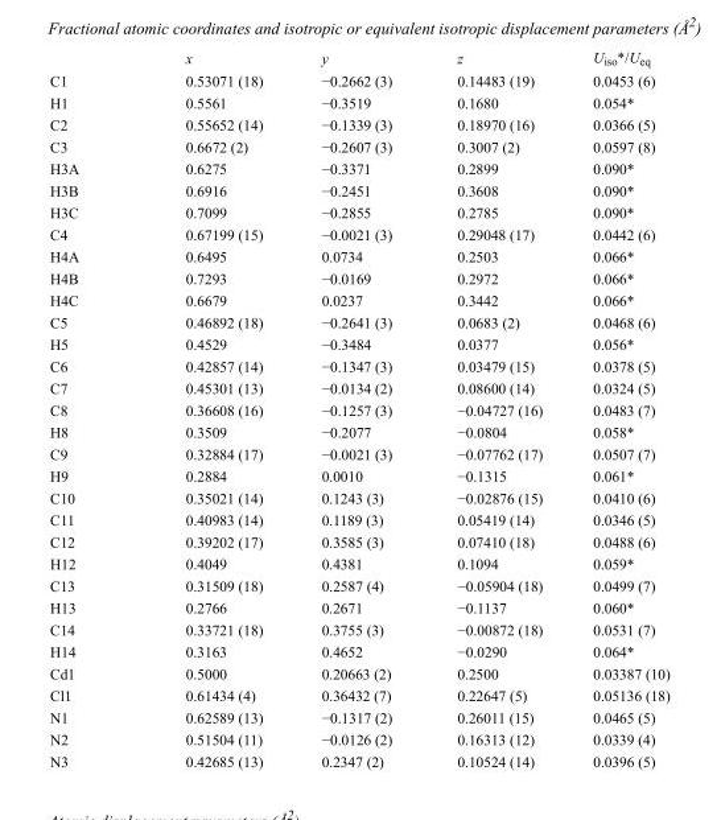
<table><thead><tr><td></td><td>x</td><td>y</td><td>z</td><td>U<sub>iso</sub>*/U<sub>eq</sub></td></tr></thead><tbody><tr><td>C1</td><td>0.53071 (18)</td><td>−0.2662 (3)</td><td>0.14483 (19)</td><td>0.0453 (6)</td></tr><tr><td>H1</td><td>0.5561</td><td>−0.3519</td><td>0.1680</td><td>0.054*</td></tr><tr><td>C2</td><td>0.55652 (14)</td><td>−0.1339 (3)</td><td>0.18970 (16)</td><td>0.0366 (5)</td></tr><tr><td>C3</td><td>0.6672 (2)</td><td>−0.2607 (3)</td><td>0.3007 (2)</td><td>0.0597 (8)</td></tr><tr><td>H3A</td><td>0.6275</td><td>−0.3371</td><td>0.2899</td><td>0.090*</td></tr><tr><td>H3B</td><td>0.6916</td><td>−0.2451</td><td>0.3608</td><td>0.090*</td></tr><tr><td>H3C</td><td>0.7099</td><td>−0.2855</td><td>0.2785</td><td>0.090*</td></tr><tr><td>C4</td><td>0.67199 (15)</td><td>−0.0021 (3)</td><td>0.29048 (17)</td><td>0.0442 (6)</td></tr><tr><td>H4A</td><td>0.6495</td><td>0.0734</td><td>0.2503</td><td>0.066*</td></tr><tr><td>H4B</td><td>0.7293</td><td>−0.0169</td><td>0.2972</td><td>0.066*</td></tr><tr><td>H4C</td><td>0.6679</td><td>0.0237</td><td>0.3442</td><td>0.066*</td></tr><tr><td>C5</td><td>0.46892 (18)</td><td>−0.2641 (3)</td><td>0.0683 (2)</td><td>0.0468 (6)</td></tr><tr><td>H5</td><td>0.4529</td><td>−0.3484</td><td>0.0377</td><td>0.056*</td></tr><tr><td>C6</td><td>0.42857 (14)</td><td>−0.1347 (3)</td><td>0.03479 (15)</td><td>0.0378 (5)</td></tr><tr><td>C7</td><td>0.45301 (13)</td><td>−0.0134 (2)</td><td>0.08600 (14)</td><td>0.0324 (5)</td></tr><tr><td>C8</td><td>0.36608 (16)</td><td>−0.1257 (3)</td><td>−0.04727 (16)</td><td>0.0483 (7)</td></tr><tr><td>H8</td><td>0.3509</td><td>−0.2077</td><td>−0.0804</td><td>0.058*</td></tr><tr><td>C9</td><td>0.32884 (17)</td><td>−0.0021 (3)</td><td>−0.07762 (17)</td><td>0.0507 (7)</td></tr><tr><td>H9</td><td>0.2884</td><td>0.0010</td><td>−0.1315</td><td>0.061*</td></tr><tr><td>C10</td><td>0.35021 (14)</td><td>0.1243 (3)</td><td>−0.02876 (15)</td><td>0.0410 (6)</td></tr><tr><td>C11</td><td>0.40983 (14)</td><td>0.1189 (3)</td><td>0.05419 (14)</td><td>0.0346 (5)</td></tr><tr><td>C12</td><td>0.39202 (17)</td><td>0.3585 (3)</td><td>0.07410 (18)</td><td>0.0488 (6)</td></tr><tr><td>H12</td><td>0.4049</td><td>0.4381</td><td>0.1094</td><td>0.059*</td></tr><tr><td>C13</td><td>0.31509 (18)</td><td>0.2587 (4)</td><td>−0.05904 (18)</td><td>0.0499 (7)</td></tr><tr><td>H13</td><td>0.2766</td><td>0.2671</td><td>−0.1137</td><td>0.060*</td></tr><tr><td>C14</td><td>0.33721 (18)</td><td>0.3755 (3)</td><td>−0.00872 (18)</td><td>0.0531 (7)</td></tr><tr><td>H14</td><td>0.3163</td><td>0.4652</td><td>−0.0290</td><td>0.064*</td></tr><tr><td>Cd1</td><td>0.5000</td><td>0.20663 (2)</td><td>0.2500</td><td>0.03387 (10)</td></tr><tr><td>Cl1</td><td>0.61434 (4)</td><td>0.36432 (7)</td><td>0.22647 (5)</td><td>0.05136 (18)</td></tr><tr><td>N1</td><td>0.62589 (13)</td><td>−0.1317 (2)</td><td>0.26011 (15)</td><td>0.0465 (5)</td></tr><tr><td>N2</td><td>0.51504 (11)</td><td>−0.0126 (2)</td><td>0.16313 (12)</td><td>0.0339 (4)</td></tr><tr><td>N3</td><td>0.42685 (13)</td><td>0.2347 (2)</td><td>0.10524 (14)</td><td>0.0396 (5)</td></tr></tbody></table>